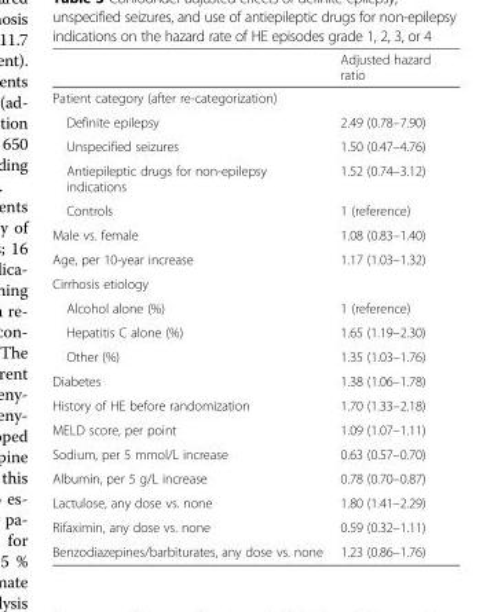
<table><thead><tr><td></td><td>Adjusted hazard ratio</td></tr></thead><tbody><tr><td colspan="2">Patient category (after re-categorization)</td></tr><tr><td>Definite epilepsy</td><td>2.49 (0.78–7.90)</td></tr><tr><td>Unspecified seizures</td><td>1.50 (0.47–4.76)</td></tr><tr><td>Antiepileptic drugs for non-epilepsy indications</td><td>1.52 (0.74–3.12)</td></tr><tr><td>Controls</td><td>1 (reference)</td></tr><tr><td>Male vs. female</td><td>1.08 (0.83–1.40)</td></tr><tr><td>Age, per 10-year increase</td><td>1.17 (1.03–1.32)</td></tr><tr><td colspan="2">Cirrhosis etiology</td></tr><tr><td>Alcohol alone (%)</td><td>1 (reference)</td></tr><tr><td>Hepatitis C alone (%)</td><td>1.65 (1.19–2.30)</td></tr><tr><td>Other (%)</td><td>1.35 (1.03–1.76)</td></tr><tr><td>Diabetes</td><td>1.38 (1.06–1.78)</td></tr><tr><td>History of HE before randomization</td><td>1.70 (1.33–2.18)</td></tr><tr><td>MELD score, per point</td><td>1.09 (1.07–1.11)</td></tr><tr><td>Sodium, per 5 mmol/L increase</td><td>0.63 (0.57–0.70)</td></tr><tr><td>Albumin, per 5 g/L increase</td><td>0.78 (0.70–0.87)</td></tr><tr><td>Lactulose, any dose vs. none</td><td>1.80 (1.41–2.29)</td></tr><tr><td>Rifaximin, any dose vs. none</td><td>0.59 (0.32–1.11)</td></tr><tr><td>Benzodiazepines/barbiturates, any dose vs. none</td><td>1.23 (0.86–1.76)</td></tr></tbody></table>